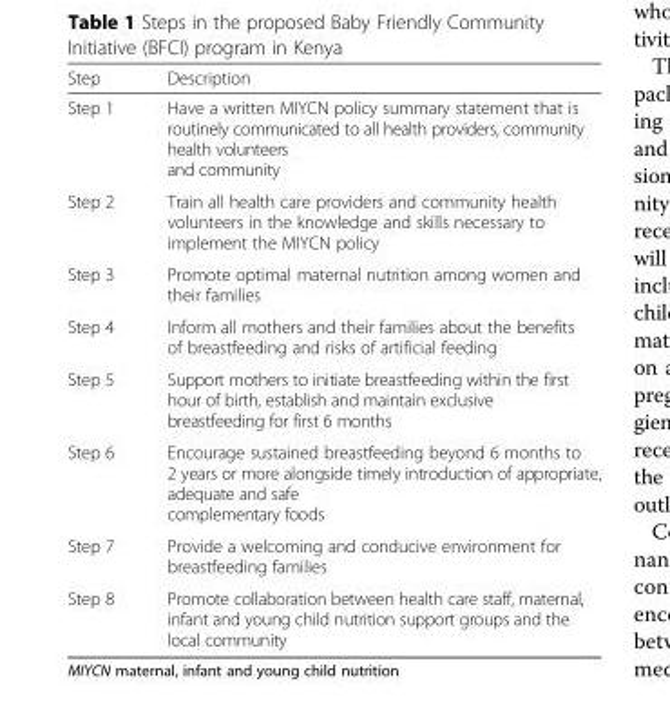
<table><thead><tr><td>Step</td><td>Description</td></tr></thead><tbody><tr><td>Step 1</td><td>Have a written MIYCN policy summary statement that is routinely communicated to all health providers, community health volunteers and community</td></tr><tr><td>Step 2</td><td>Train all health care providers and community health volunteers in the knowledge and skills necessary to implement the MIYCN policy</td></tr><tr><td>Step 3</td><td>Promote optimal maternal nutrition among women and their families</td></tr><tr><td>Step 4</td><td>Inform all mothers and their families about the benefits of breastfeeding and risks of artificial feeding</td></tr><tr><td>Step 5</td><td>Support mothers to initiate breastfeeding within the first hour of birth, establish and maintain exclusive breastfeeding for first 6 months</td></tr><tr><td>Step 6</td><td>Encourage sustained breastfeeding beyond 6 months to 2 years or more alongside timely introduction of appropriate, adequate and safe complementary foods</td></tr><tr><td>Step 7</td><td>Provide a welcoming and conducive environment for breastfeeding families</td></tr><tr><td>Step 8</td><td>Promote collaboration between health care staff, maternal, infant and young child nutrition support groups and the local community</td></tr></tbody></table>